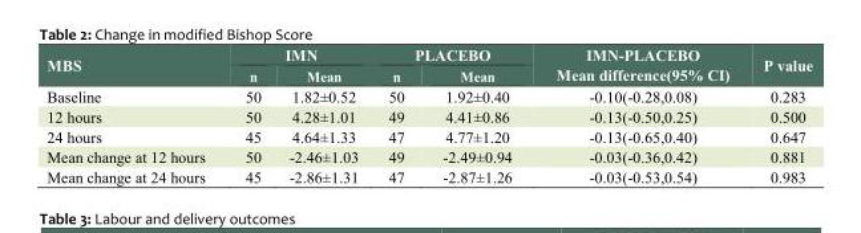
<table><thead><tr><td rowspan="2">MBS</td><td colspan="2">IMN</td><td colspan="2">PLACEBO</td><td rowspan="2">IMN-PLACEBO Mean difference(95% CI)</td><td rowspan="2">P value</td></tr><tr><td>n</td><td>Mean</td><td>n</td><td>Mean</td></tr></thead><tbody><tr><td>Baseline</td><td>50</td><td>1.82±0.52</td><td>50</td><td>1.92±0.40</td><td>-0.10(-0.28,0.08)</td><td>0.283</td></tr><tr><td>12 hours</td><td>50</td><td>4.28±1.01</td><td>49</td><td>4.41±0.86</td><td>-0.13(-0.50,0.25)</td><td>0.500</td></tr><tr><td>24 hours</td><td>45</td><td>4.64±1.33</td><td>47</td><td>4.77±1.20</td><td>-0.13(-0.65,0.40)</td><td>0.647</td></tr><tr><td>Mean change at 12 hours</td><td>50</td><td>-2.46±1.03</td><td>49</td><td>-2.49±0.94</td><td>-0.03(-0.36,0.42)</td><td>0.881</td></tr><tr><td>Mean change at 24 hours</td><td>45</td><td>-2.86±1.31</td><td>47</td><td>-2.87±1.26</td><td>-0.03(-0.53,0.54)</td><td>0.983</td></tr></tbody></table>